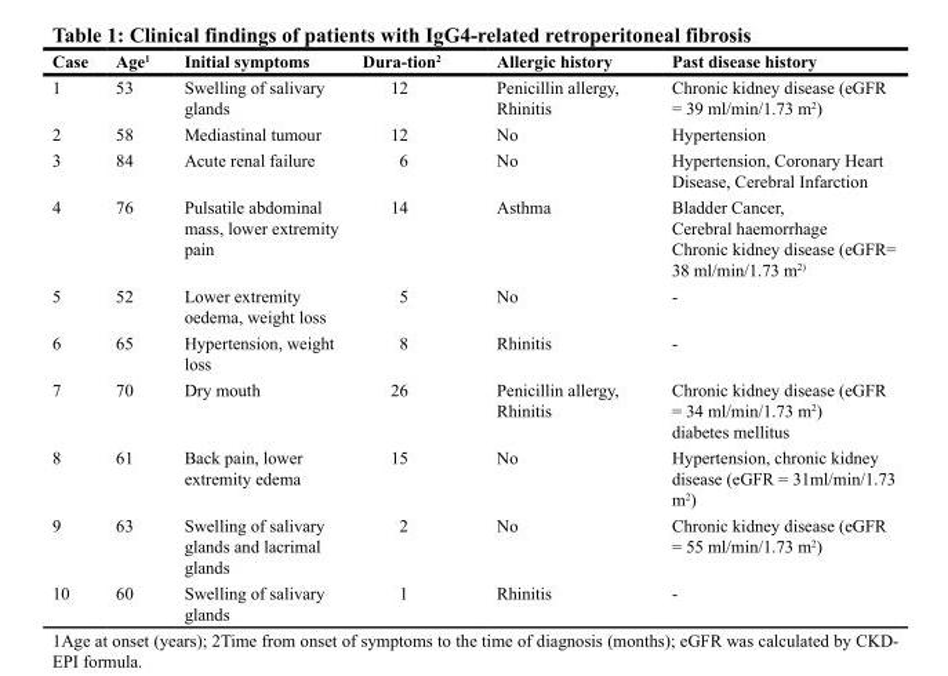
<table><thead><tr><td>Case</td><td>Age<sup>1</sup></td><td>Initial symptoms</td><td>Dura-tion<sup>2</sup></td><td>Allergic history</td><td>Past disease history</td></tr></thead><tbody><tr><td>1</td><td>53</td><td>Swelling of salivary glands</td><td>12</td><td>Penicillin allergy, Rhinitis</td><td>Chronic kidney disease (eGFR = 39 ml/min/1.73 m<sup>2</sup>)</td></tr><tr><td>2</td><td>58</td><td>Mediastinal tumour</td><td>12</td><td>No</td><td>Hypertension</td></tr><tr><td>3</td><td>84</td><td>Acute renal failure</td><td>6</td><td>No</td><td>Hypertension, Coronary Heart Disease, Cerebral Infarction</td></tr><tr><td>4</td><td>76</td><td>Pulsatile abdominal mass, lower extremity pain</td><td>14</td><td>Asthma</td><td>Bladder Cancer, Cerebral haemorrhage Chronic kidney disease (eGFR= 38 ml/min/1.73 m<sup>2)</sup></td></tr><tr><td>5</td><td>52</td><td>Lower extremity oedema, weight loss</td><td>5</td><td>No</td><td>-</td></tr><tr><td>6</td><td>65</td><td>Hypertension, weight loss</td><td>8</td><td>Rhinitis</td><td>-</td></tr><tr><td>7</td><td>70</td><td>Dry mouth</td><td>26</td><td>Penicillin allergy, Rhinitis</td><td>Chronic kidney disease (eGFR = 34 ml/min/1.73 m<sup>2</sup>) diabetes mellitus</td></tr><tr><td>8</td><td>61</td><td>Back pain, lower extremity edema</td><td>15</td><td>No</td><td>Hypertension, chronic kidney disease (eGFR = 31ml/min/1.73 m<sup>2</sup>)</td></tr><tr><td>9</td><td>63</td><td>Swelling of salivary glands and lacrimal glands</td><td>2</td><td>No</td><td>Chronic kidney disease (eGFR = 55 ml/min/1.73 m<sup>2</sup>)</td></tr><tr><td>10</td><td>60</td><td>Swelling of salivary glands</td><td>1</td><td>Rhinitis</td><td>-</td></tr></tbody></table>